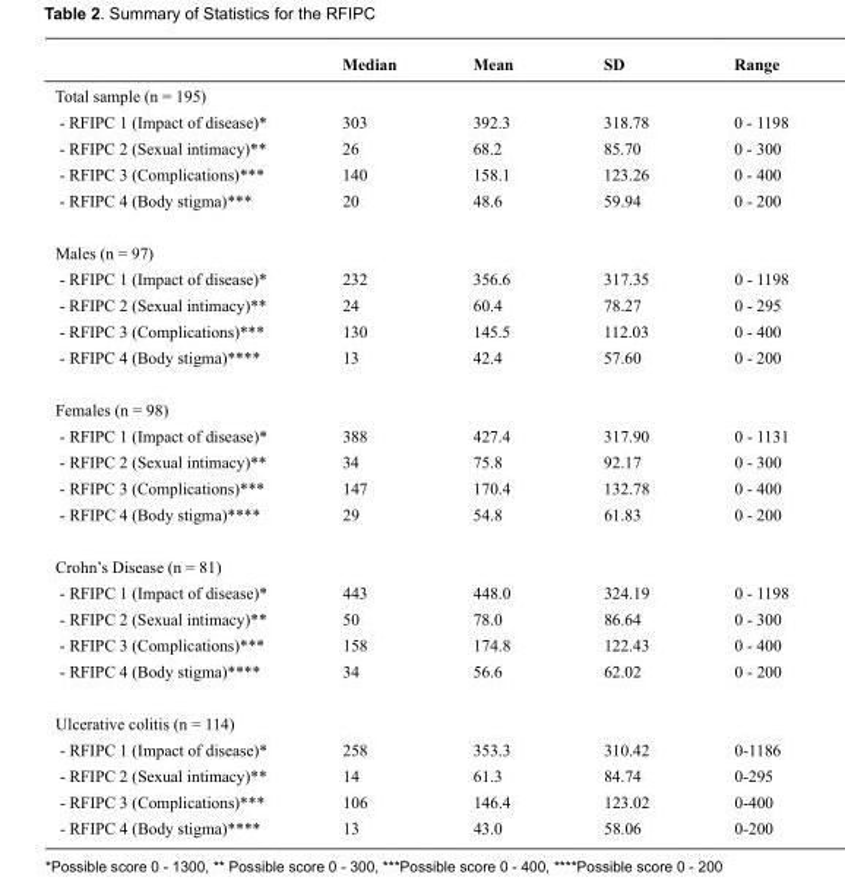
<table><thead><tr><td></td><td>Median</td><td>Mean</td><td>SD</td><td>Range</td></tr></thead><tbody><tr><td colspan="5">Total sample (n = 195)</td></tr><tr><td>- RFIPC 1 (Impact of disease)*</td><td>303</td><td>392.3</td><td>318.78</td><td>0 - 1198</td></tr><tr><td>- RFIPC 2 (Sexual intimacy)**</td><td>26</td><td>68.2</td><td>85.70</td><td>0 - 300</td></tr><tr><td>- RFIPC 3 (Complications)***</td><td>140</td><td>158.1</td><td>123.26</td><td>0 - 400</td></tr><tr><td>- RFIPC 4 (Body stigma)***</td><td>20</td><td>48.6</td><td>59.94</td><td>0 - 200</td></tr><tr><td colspan="5">Males (n = 97)</td></tr><tr><td>- RFIPC 1 (Impact of disease)*</td><td>232</td><td>356.6</td><td>317.35</td><td>0 - 1198</td></tr><tr><td>- RFIPC 2 (Sexual intimacy)**</td><td>24</td><td>60.4</td><td>78.27</td><td>0 - 295</td></tr><tr><td>- RFIPC 3 (Complications)***</td><td>130</td><td>145.5</td><td>112.03</td><td>0 - 400</td></tr><tr><td>- RFIPC 4 (Body stigma)****</td><td>13</td><td>42.4</td><td>57.60</td><td>0 - 200</td></tr><tr><td colspan="5">Females (n = 98)</td></tr><tr><td>- RFIPC 1 (Impact of disease)*</td><td>388</td><td>427.4</td><td>317.90</td><td>0 - 1131</td></tr><tr><td>- RFIPC 2 (Sexual intimacy)**</td><td>34</td><td>75.8</td><td>92.17</td><td>0 - 300</td></tr><tr><td>- RFIPC 3 (Complications)***</td><td>147</td><td>170.4</td><td>132.78</td><td>0 - 400</td></tr><tr><td>- RFIPC 4 (Body stigma)****</td><td>29</td><td>54.8</td><td>61.83</td><td>0 - 200</td></tr><tr><td colspan="5">Crohn’s Disease (n = 81)</td></tr><tr><td>- RFIPC 1 (Impact of disease)*</td><td>443</td><td>448.0</td><td>324.19</td><td>0 - 1198</td></tr><tr><td>- RFIPC 2 (Sexual intimacy)**</td><td>50</td><td>78.0</td><td>86.64</td><td>0 - 300</td></tr><tr><td>- RFIPC 3 (Complications)***</td><td>158</td><td>174.8</td><td>122.43</td><td>0 - 400</td></tr><tr><td>- RFIPC 4 (Body stigma)****</td><td>34</td><td>56.6</td><td>62.02</td><td>0 - 200</td></tr><tr><td colspan="5">Ulcerative colitis (n = 114)</td></tr><tr><td>- RFIPC 1 (Impact of disease)*</td><td>258</td><td>353.3</td><td>310.42</td><td>0-1186</td></tr><tr><td>- RFIPC 2 (Sexual intimacy)**</td><td>14</td><td>61.3</td><td>84.74</td><td>0-295</td></tr><tr><td>- RFIPC 3 (Complications)***</td><td>106</td><td>146.4</td><td>123.02</td><td>0-400</td></tr><tr><td>- RFIPC 4 (Body stigma)****</td><td>13</td><td>43.0</td><td>58.06</td><td>0-200</td></tr></tbody></table>